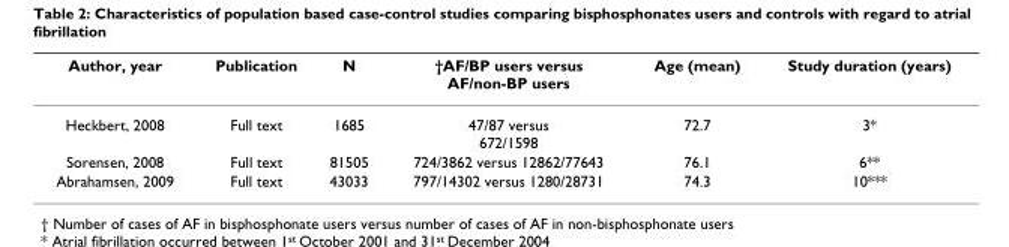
<table><thead><tr><td>Author, year</td><td>Publication</td><td>N</td><td>†AF/BP users versus AF/non-BP users</td><td>Age (mean)</td><td>Study duration (years)</td></tr></thead><tbody><tr><td>Heckbert, 2008</td><td>Full text</td><td>1685</td><td>47/87 versus 672/1598</td><td>72.7</td><td>3*</td></tr><tr><td>Sorensen, 2008</td><td>Full text</td><td>81505</td><td>724/3862 versus 12862/77643</td><td>76.1</td><td>6**</td></tr><tr><td>Abrahamsen, 2009</td><td>Full text</td><td>43033</td><td>797/14302 versus 1280/28731</td><td>74.3</td><td>10***</td></tr></tbody></table>